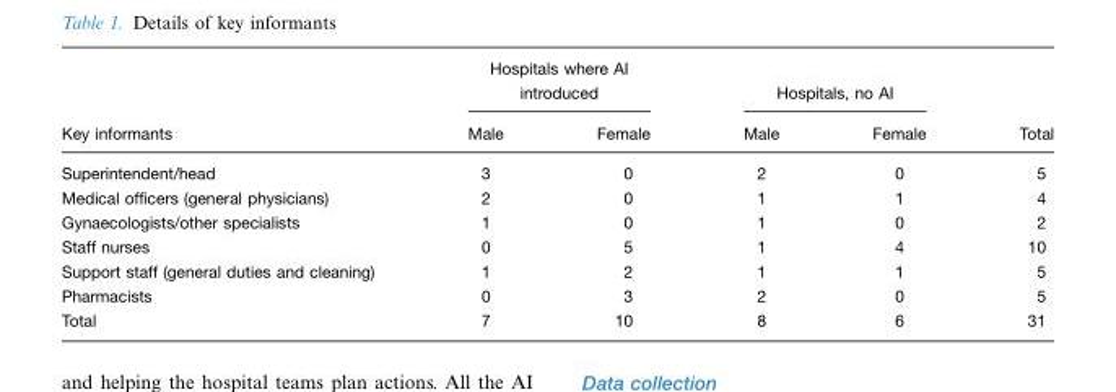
<table><thead><tr><td rowspan="2">Key informants</td><td colspan="2">Hospitals where AI introduced</td><td colspan="2">Hospitals, no AI</td><td rowspan="2">Total</td></tr><tr><td>Male</td><td>Female</td><td>Male</td><td>Female</td></tr></thead><tbody><tr><td>Superintendent/head</td><td>3</td><td>0</td><td>2</td><td>0</td><td>5</td></tr><tr><td>Medical officers (general physicians)</td><td>2</td><td>0</td><td>1</td><td>1</td><td>4</td></tr><tr><td>Gynaecologists/other specialists</td><td>1</td><td>0</td><td>1</td><td>0</td><td>2</td></tr><tr><td>Staff nurses</td><td>0</td><td>5</td><td>1</td><td>4</td><td>10</td></tr><tr><td>Support staff (general duties and cleaning)</td><td>1</td><td>2</td><td>1</td><td>1</td><td>5</td></tr><tr><td>Pharmacists</td><td>0</td><td>3</td><td>2</td><td>0</td><td>5</td></tr><tr><td>Total</td><td>7</td><td>10</td><td>8</td><td>6</td><td>31</td></tr></tbody></table>